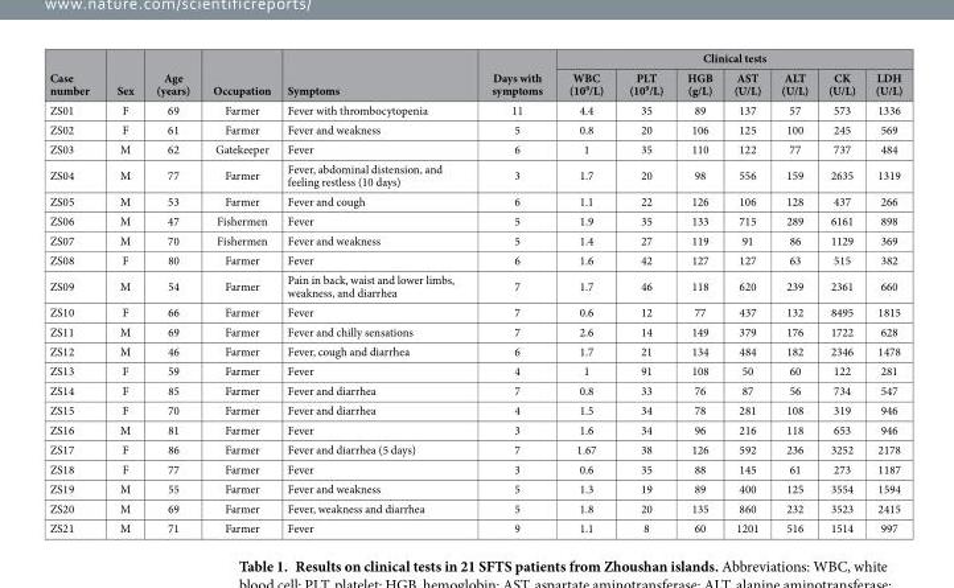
<table><thead><tr><td rowspan="2">Case number</td><td rowspan="2">Sex</td><td rowspan="2">Age (years)</td><td rowspan="2">Occupation</td><td rowspan="2">Symptoms</td><td rowspan="2">Days with symptoms</td><td colspan="7">Clinical tests</td></tr><tr><td>WBC (10<sup>9</sup>/L)</td><td>PLT (10<sup>9</sup>/L)</td><td>HGB (g/L)</td><td>AST (U/L)</td><td>ALT (U/L)</td><td>CK (U/L)</td><td>LDH (U/L)</td></tr></thead><tbody><tr><td>ZS01</td><td>F</td><td>69</td><td>Farmer</td><td>Fever with thrombocytopenia</td><td>11</td><td>4.4</td><td>35</td><td>89</td><td>137</td><td>57</td><td>573</td><td>1336</td></tr><tr><td>ZS02</td><td>F</td><td>61</td><td>Farmer</td><td>Fever and weakness</td><td>5</td><td>0.8</td><td>20</td><td>106</td><td>125</td><td>100</td><td>245</td><td>569</td></tr><tr><td>ZS03</td><td>M</td><td>62</td><td>Gatekeeper</td><td>Fever</td><td>6</td><td>1</td><td>35</td><td>110</td><td>122</td><td>77</td><td>737</td><td>484</td></tr><tr><td>ZS04</td><td>M</td><td>77</td><td>Farmer</td><td>Fever, abdominal distension, and feeling restless (10 days)</td><td>3</td><td>1.7</td><td>20</td><td>98</td><td>556</td><td>159</td><td>2635</td><td>1319</td></tr><tr><td>ZS05</td><td>M</td><td>53</td><td>Farmer</td><td>Fever and cough</td><td>6</td><td>1.1</td><td>22</td><td>126</td><td>106</td><td>128</td><td>437</td><td>266</td></tr><tr><td>ZS06</td><td>M</td><td>47</td><td>Fishermen</td><td>Fever</td><td>5</td><td>1.9</td><td>35</td><td>133</td><td>715</td><td>289</td><td>6161</td><td>898</td></tr><tr><td>ZS07</td><td>M</td><td>70</td><td>Fishermen</td><td>Fever and weakness</td><td>5</td><td>1.4</td><td>27</td><td>119</td><td>91</td><td>86</td><td>1129</td><td>369</td></tr><tr><td>ZS08</td><td>F</td><td>80</td><td>Farmer</td><td>Fever</td><td>6</td><td>1.6</td><td>42</td><td>127</td><td>127</td><td>63</td><td>515</td><td>382</td></tr><tr><td>ZS09</td><td>M</td><td>54</td><td>Farmer</td><td>Pain in back, waist and lower limbs, weakness, and diarrhea</td><td>7</td><td>1.7</td><td>46</td><td>118</td><td>620</td><td>239</td><td>2361</td><td>660</td></tr><tr><td>ZS10</td><td>F</td><td>66</td><td>Farmer</td><td>Fever</td><td>7</td><td>0.6</td><td>12</td><td>77</td><td>437</td><td>132</td><td>8495</td><td>1815</td></tr><tr><td>ZS11</td><td>M</td><td>69</td><td>Farmer</td><td>Fever and chilly sensations</td><td>7</td><td>2.6</td><td>14</td><td>149</td><td>379</td><td>176</td><td>1722</td><td>628</td></tr><tr><td>ZS12</td><td>M</td><td>46</td><td>Farmer</td><td>Fever, cough and diarrhea</td><td>6</td><td>1.7</td><td>21</td><td>134</td><td>484</td><td>182</td><td>2346</td><td>1478</td></tr><tr><td>ZS13</td><td>F</td><td>59</td><td>Farmer</td><td>Fever</td><td>4</td><td>1</td><td>91</td><td>108</td><td>50</td><td>60</td><td>122</td><td>281</td></tr><tr><td>ZS14</td><td>F</td><td>85</td><td>Farmer</td><td>Fever and diarrhea</td><td>7</td><td>0.8</td><td>33</td><td>76</td><td>87</td><td>56</td><td>734</td><td>547</td></tr><tr><td>ZS15</td><td>F</td><td>70</td><td>Farmer</td><td>Fever and diarrhea</td><td>4</td><td>1.5</td><td>34</td><td>78</td><td>281</td><td>108</td><td>319</td><td>946</td></tr><tr><td>ZS16</td><td>M</td><td>81</td><td>Farmer</td><td>Fever</td><td>3</td><td>1.6</td><td>34</td><td>96</td><td>216</td><td>118</td><td>653</td><td>946</td></tr><tr><td>ZS17</td><td>F</td><td>86</td><td>Farmer</td><td>Fever and diarrhea (5 days)</td><td>7</td><td>1.67</td><td>38</td><td>126</td><td>592</td><td>236</td><td>3252</td><td>2178</td></tr><tr><td>ZS18</td><td>F</td><td>77</td><td>Farmer</td><td>Fever</td><td>3</td><td>0.6</td><td>35</td><td>88</td><td>145</td><td>61</td><td>273</td><td>1187</td></tr><tr><td>ZS19</td><td>M</td><td>55</td><td>Farmer</td><td>Fever and weakness</td><td>5</td><td>1.3</td><td>19</td><td>89</td><td>400</td><td>125</td><td>3554</td><td>1594</td></tr><tr><td>ZS20</td><td>M</td><td>69</td><td>Farmer</td><td>Fever, weakness and diarrhea</td><td>5</td><td>1.8</td><td>20</td><td>135</td><td>860</td><td>232</td><td>3523</td><td>2415</td></tr><tr><td>ZS21</td><td>M</td><td>71</td><td>Farmer</td><td>Fever</td><td>9</td><td>1.1</td><td>8</td><td>60</td><td>1201</td><td>516</td><td>1514</td><td>997</td></tr></tbody></table>